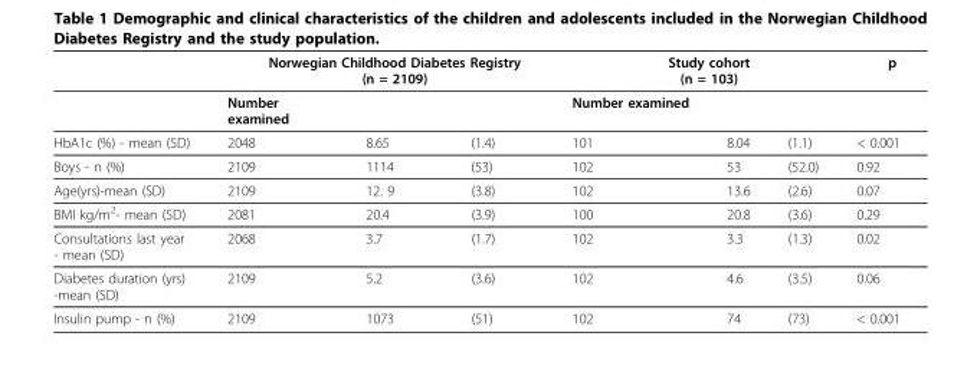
<table><thead><tr><td rowspan="2"></td><td colspan="3">Norwegian Childhood Diabetes Registry (n = 2109)</td><td colspan="3">Study cohort (n = 103)</td><td rowspan="2">p</td></tr><tr><td>Number examined</td><td></td><td></td><td>Number examined</td><td></td><td></td></tr></thead><tbody><tr><td>HbA1c (%) - mean (SD)</td><td>2048</td><td>8.65</td><td>(1.4)</td><td>101</td><td>8.04</td><td>(1.1)</td><td>&lt; 0.001</td></tr><tr><td>Boys - n (%)</td><td>2109</td><td>1114</td><td>(53)</td><td>102</td><td>53</td><td>(52.0)</td><td>0.92</td></tr><tr><td>Age(yrs)-mean (SD)</td><td>2109</td><td>12. 9</td><td>(3.8)</td><td>102</td><td>13.6</td><td>(2.6)</td><td>0.07</td></tr><tr><td>BMI kg/m<sup>2</sup>- mean (SD)</td><td>2081</td><td>20.4</td><td>(3.9)</td><td>100</td><td>20.8</td><td>(3.6)</td><td>0.29</td></tr><tr><td>Consultations last year - mean (SD)</td><td>2068</td><td>3.7</td><td>(1.7)</td><td>102</td><td>3.3</td><td>(1.3)</td><td>0.02</td></tr><tr><td>Diabetes duration (yrs) -mean (SD)</td><td>2109</td><td>5.2</td><td>(3.6)</td><td>102</td><td>4.6</td><td>(3.5)</td><td>0.06</td></tr><tr><td>Insulin pump - n (%)</td><td>2109</td><td>1073</td><td>(51)</td><td>102</td><td>74</td><td>(73)</td><td>&lt; 0.001</td></tr></tbody></table>